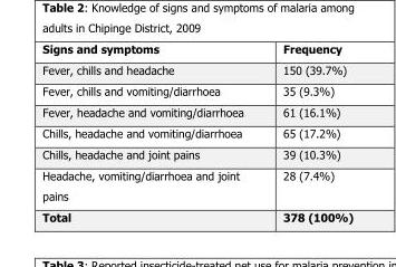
<table><thead><tr><td>Signs and symptoms</td><td>Frequency</td></tr></thead><tbody><tr><td>Fever, chills and headache</td><td>150 (39.7%)</td></tr><tr><td>Fever, chills and vomiting/diarrhoea</td><td>35 (9.3%)</td></tr><tr><td>Fever, headache and vomiting/diarrhoea</td><td>61 (16.1%)</td></tr><tr><td>Chills, headache and vomiting/diarrhoea</td><td>65 (17.2%)</td></tr><tr><td>Chills, headache and joint pains</td><td>39 (10.3%)</td></tr><tr><td>Headache, vomiting/diarrhoea and joint pains</td><td>28 (7.4%)</td></tr><tr><td>Total</td><td>378 (100%)</td></tr></tbody></table>